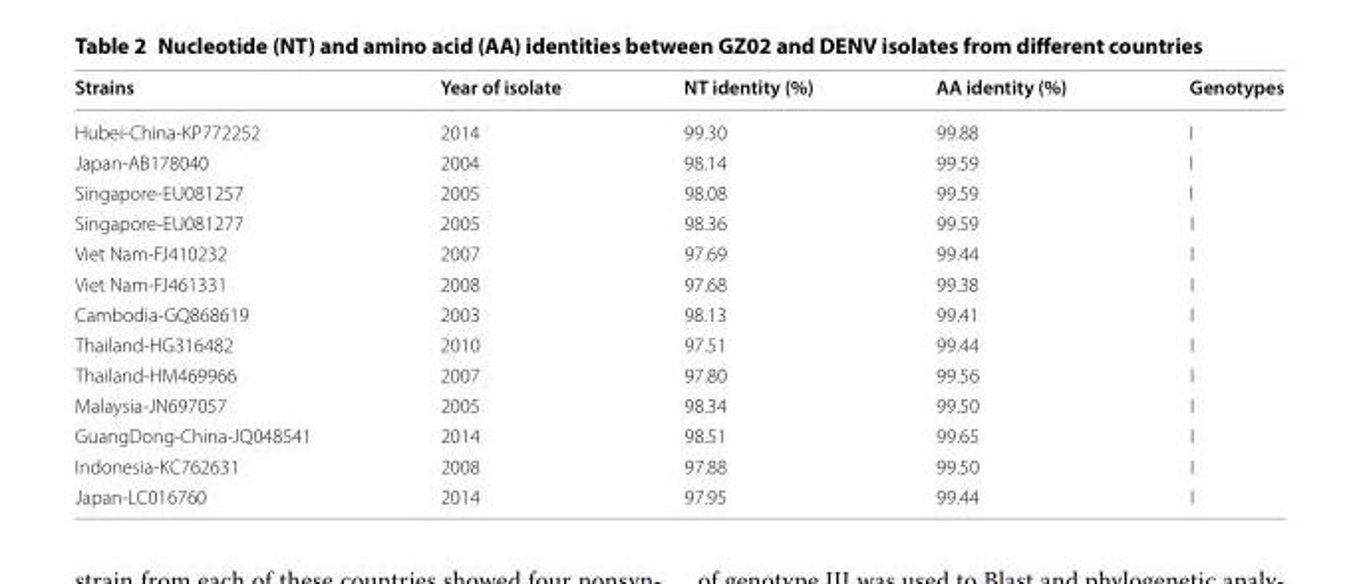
<table><thead><tr><td>Strains</td><td>Year of isolate</td><td>NT identity (%)</td><td>AA identity (%)</td><td>Genotypes</td></tr></thead><tbody><tr><td>Hubei-China-KP772252</td><td>2014</td><td>99.30</td><td>99.88</td><td>I</td></tr><tr><td>Japan-AB178040</td><td>2004</td><td>98.14</td><td>99.59</td><td>I</td></tr><tr><td>Singapore-EU081257</td><td>2005</td><td>98.08</td><td>99.59</td><td>I</td></tr><tr><td>Singapore-EU081277</td><td>2005</td><td>98.36</td><td>99.59</td><td>I</td></tr><tr><td>Viet Nam-FJ410232</td><td>2007</td><td>97.69</td><td>99.44</td><td>I</td></tr><tr><td>Viet Nam-FJ461331</td><td>2008</td><td>97.68</td><td>99.38</td><td>I</td></tr><tr><td>Cambodia-GQ868619</td><td>2003</td><td>98.13</td><td>99.41</td><td>I</td></tr><tr><td>Thailand-HG316482</td><td>2010</td><td>97.51</td><td>99.44</td><td>I</td></tr><tr><td>Thailand-HM469966</td><td>2007</td><td>97.80</td><td>99.56</td><td>I</td></tr><tr><td>Malaysia-JN697057</td><td>2005</td><td>98.34</td><td>99.50</td><td>I</td></tr><tr><td>GuangDong-China-JQ048541</td><td>2014</td><td>98.51</td><td>99.65</td><td>I</td></tr><tr><td>Indonesia-KC762631</td><td>2008</td><td>97.88</td><td>99.50</td><td>I</td></tr><tr><td>Japan-LC016760</td><td>2014</td><td>97.95</td><td>99.44</td><td>I</td></tr></tbody></table>